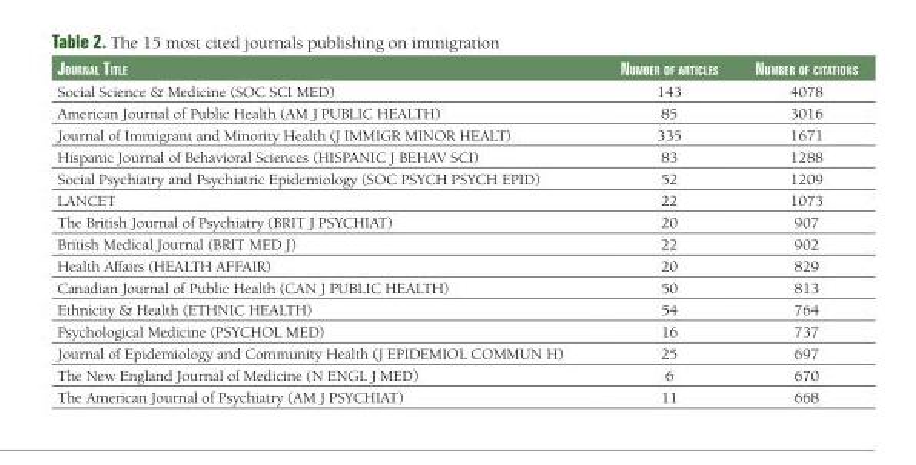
<table><thead><tr><td>Journal TiTle</td><td>number of arTicles</td><td>number of ciTaTions</td></tr></thead><tbody><tr><td>Social Science &amp; Medicine (SOC SCI MED)</td><td>143</td><td>4078</td></tr><tr><td>American Journal of Public Health (AM J PUBLIC HEALTH)</td><td>85</td><td>3016</td></tr><tr><td>Journal of Immigrant and Minority Health (J IMMIGR MINOR HEALT)</td><td>335</td><td>1671</td></tr><tr><td>Hispanic Journal of Behavioral Sciences (HISPANIC J BEHAV SCI)</td><td>83</td><td>1288</td></tr><tr><td>Social Psychiatry and Psychiatric Epidemiology (SOC PSYCH PSYCH EPID)</td><td>52</td><td>1209</td></tr><tr><td>LANCET</td><td>22</td><td>1073</td></tr><tr><td>The British Journal of Psychiatry (BRIT J PSYCHIAT)</td><td>20</td><td>907</td></tr><tr><td>British Medical Journal (BRIT MED J)</td><td>22</td><td>902</td></tr><tr><td>Health Affairs (HEALTH AFFAIR)</td><td>20</td><td>829</td></tr><tr><td>Canadian Journal of Public Health (CAN J PUBLIC HEALTH)</td><td>50</td><td>813</td></tr><tr><td>Ethnicity &amp; Health (ETHNIC HEALTH)</td><td>54</td><td>764</td></tr><tr><td>Psychological Medicine (PSYCHOL MED)</td><td>16</td><td>737</td></tr><tr><td>Journal of Epidemiology and Community Health (J EPIDEMIOL COMMUN H)</td><td>25</td><td>697</td></tr><tr><td>The New England Journal of Medicine (N ENGL J MED)</td><td>6</td><td>670</td></tr><tr><td>The American Journal of Psychiatry (AM J PSYCHIAT)</td><td>11</td><td>668</td></tr></tbody></table>